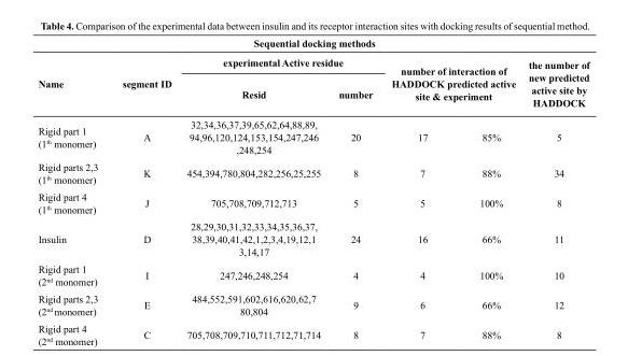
<table><thead><tr><td colspan="7">Sequential docking methods</td></tr><tr><td rowspan="3">Name Rigid part 1 (1<sup>th</sup> monomer)</td><td rowspan="3">segment ID A</td><td colspan="2">experimental Active residue</td><td rowspan="2" colspan="2">number of interaction of HADDOCK predicted active site &amp; experiment</td><td rowspan="3">the number of new predicted active site by HADDOCK 5</td></tr><tr><td rowspan="2">Resid 32,34,36,37,39,65,62,64,88,89, 94,96,120,124,153,154,247,246 ,248,254</td><td rowspan="2">number 20</td></tr><tr><td>17</td><td>85%</td></tr></thead><tbody><tr><td>Rigid parts 2,3 (1<sup>th</sup> monomer)</td><td>K</td><td>454,394,780,804,282,256,25,255</td><td>8</td><td>7</td><td>88%</td><td>34</td></tr><tr><td>Rigid part 4 (1<sup>th</sup> monomer)</td><td>J</td><td>705,708,709,712,713</td><td>5</td><td>5</td><td>100%</td><td>8</td></tr><tr><td>Insulin</td><td>D</td><td>28,29,30,31,32,33,34,35,36,37, 38,39,40,41,42,1,2,3,4,19,12,1 3,14,17</td><td>24</td><td>16</td><td>66%</td><td>11</td></tr><tr><td>Rigid part 1 (2<sup>nd</sup> monomer)</td><td>I</td><td>247,246,248,254</td><td>4</td><td>4</td><td>100%</td><td>10</td></tr><tr><td>Rigid parts 2,3 (2<sup>nd</sup> monomer)</td><td>E</td><td>484,552,591,602,616,620,62,7 80,804</td><td>9</td><td>6</td><td>66%</td><td>12</td></tr></tbody></table>